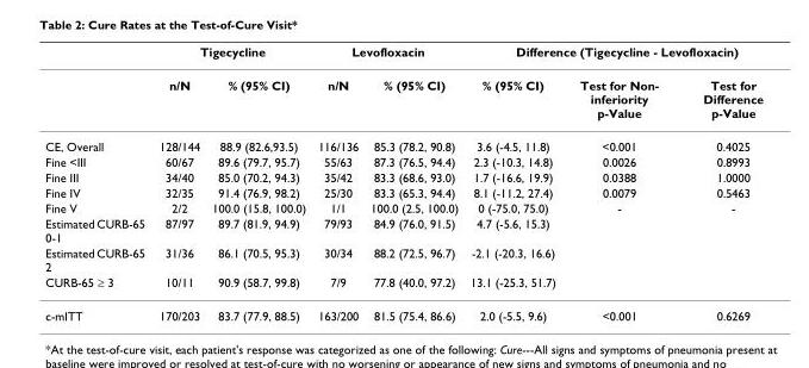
<table><thead><tr><td rowspan="2"></td><td colspan="2">Tigecycline</td><td colspan="2">Levofloxacin</td><td colspan="3">Difference (Tigecycline - Levofloxacin)</td></tr><tr><td>n/N</td><td>% (95% CI)</td><td>n/N</td><td>% (95% CI)</td><td>% (95% CI)</td><td>Test for Non- inferiority p-Value</td><td>Test for Difference p-Value</td></tr></thead><tbody><tr><td>CE, Overall</td><td>128/144</td><td>88.9 (82.6,93.5)</td><td>116/136</td><td>85.3 (78.2, 90.8)</td><td>3.6 (-4.5, 11.8)</td><td>&lt;0.001</td><td>0.4025</td></tr><tr><td>Fine &lt;III</td><td>60/67</td><td>89.6 (79.7, 95.7)</td><td>55/63</td><td>87.3 (76.5, 94.4)</td><td>2.3 (-10.3, 14.8)</td><td>0.0026</td><td>0.8993</td></tr><tr><td>Fine III</td><td>34/40</td><td>85.0 (70.2, 94.3)</td><td>35/42</td><td>83.3 (68.6, 93.0)</td><td>1.7 (-16.6, 19.9)</td><td>0.0388</td><td>1.0000</td></tr><tr><td>Fine IV</td><td>32/35</td><td>91.4 (76.9, 98.2)</td><td>25/30</td><td>83.3 (65.3, 94.4)</td><td>8.1 (-11.2, 27.4)</td><td>0.0079</td><td>0.5463</td></tr><tr><td>Fine V</td><td>2/2</td><td>100.0 (15.8, 100.0)</td><td>1/1</td><td>100.0 (2.5, 100.0)</td><td>0 (-75.0, 75.0)</td><td>-</td><td>-</td></tr><tr><td>Estimated CURB-65 0-1</td><td>87/97</td><td>89.7 (81.9, 94.9)</td><td>79/93</td><td>84.9 (76.0, 91.5)</td><td>4.7 (-5.6, 15.3)</td><td></td><td></td></tr><tr><td>Estimated CURB-65 2</td><td>31/36</td><td>86.1 (70.5, 95.3)</td><td>30/34</td><td>88.2 (72.5, 96.7)</td><td>-2.1 (-20.3, 16.6)</td><td></td><td></td></tr><tr><td>CURB-65 ≥ 3</td><td>10/11</td><td>90.9 (58.7, 99.8)</td><td>7/9</td><td>77.8 (40.0, 97.2)</td><td>13.1 (-25.3, 51.7)</td><td></td><td></td></tr><tr><td>c-mITT</td><td>170/203</td><td>83.7 (77.9, 88.5)</td><td>163/200</td><td>81.5 (75.4, 86.6)</td><td>2.0 (-5.5, 9.6)</td><td>&lt;0.001</td><td>0.6269</td></tr></tbody></table>